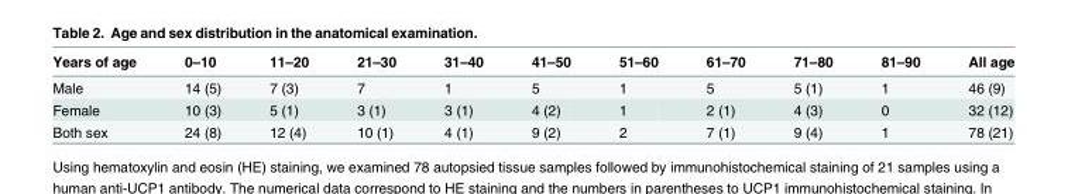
<table><thead><tr><td>Years of age</td><td>0–10</td><td>11–20</td><td>21–30</td><td>31–40</td><td>41–50</td><td>51–60</td><td>61–70</td><td>71–80</td><td>81–90</td><td>All age</td></tr></thead><tbody><tr><td>Male</td><td>14 (5)</td><td>7 (3)</td><td>7</td><td>1</td><td>5</td><td>1</td><td>5</td><td>5 (1)</td><td>1</td><td>46 (9)</td></tr><tr><td>Female</td><td>10 (3)</td><td>5 (1)</td><td>3 (1)</td><td>3 (1)</td><td>4 (2)</td><td>1</td><td>2 (1)</td><td>4 (3)</td><td>0</td><td>32 (12)</td></tr><tr><td>Both sex</td><td>24 (8)</td><td>12 (4)</td><td>10 (1)</td><td>4 (1)</td><td>9 (2)</td><td>2</td><td>7 (1)</td><td>9 (4)</td><td>1</td><td>78 (21)</td></tr></tbody></table>